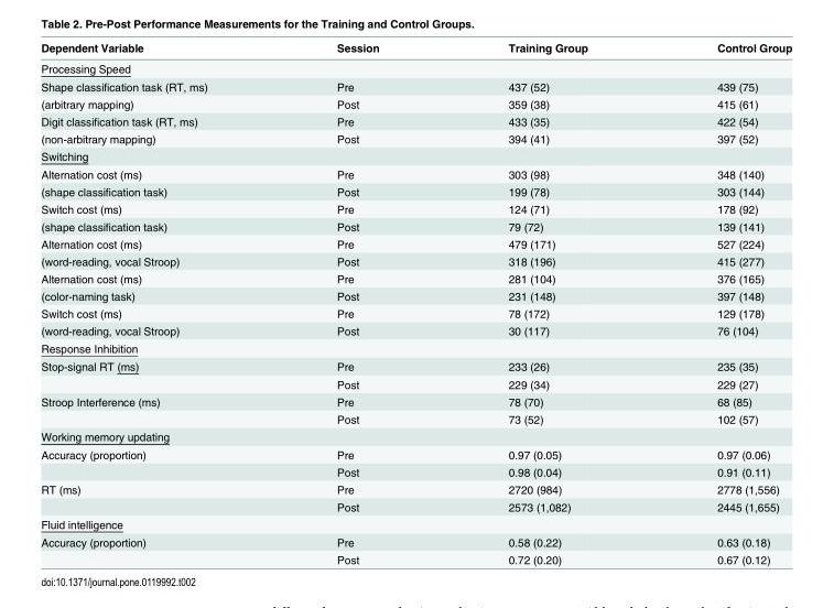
<table><thead><tr><td>Dependent Variable</td><td>Session</td><td>Training Group</td><td>Control Group</td></tr></thead><tbody><tr><td colspan="4">Processing Speed</td></tr><tr><td>Shape classification task (RT, ms)</td><td>Pre</td><td>437 (52)</td><td>439 (75)</td></tr><tr><td>(arbitrary mapping)</td><td>Post</td><td>359 (38)</td><td>415 (61)</td></tr><tr><td>Digit classification task (RT, ms)</td><td>Pre</td><td>433 (35)</td><td>422 (54)</td></tr><tr><td>(non-arbitrary mapping)</td><td>Post</td><td>394 (41)</td><td>397 (52)</td></tr><tr><td colspan="4">Switching</td></tr><tr><td>Alternation cost (ms)</td><td>Pre</td><td>303 (98)</td><td>348 (140)</td></tr><tr><td>(shape classification task)</td><td>Post</td><td>199 (78)</td><td>303 (144)</td></tr><tr><td>Switch cost (ms)</td><td>Pre</td><td>124 (71)</td><td>178 (92)</td></tr><tr><td>(shape classification task)</td><td>Post</td><td>79 (72)</td><td>139 (141)</td></tr><tr><td>Alternation cost (ms)</td><td>Pre</td><td>479 (171)</td><td>527 (224)</td></tr><tr><td>(word-reading, vocal Stroop)</td><td>Post</td><td>318 (196)</td><td>415 (277)</td></tr><tr><td>Alternation cost (ms)</td><td>Pre</td><td>281 (104)</td><td>376 (165)</td></tr><tr><td>(color-naming task)</td><td>Post</td><td>231 (148)</td><td>397 (148)</td></tr><tr><td>Switch cost (ms)</td><td>Pre</td><td>78 (172)</td><td>129 (178)</td></tr><tr><td>(word-reading, vocal Stroop)</td><td>Post</td><td>30 (117)</td><td>76 (104)</td></tr><tr><td colspan="4">Response Inhibition</td></tr><tr><td rowspan="2">Stop-signal RT (ms)</td><td>Pre</td><td>233 (26)</td><td>235 (35)</td></tr><tr><td>Post</td><td>229 (34)</td><td>229 (27)</td></tr><tr><td rowspan="2">Stroop Interference (ms)</td><td>Pre</td><td>78 (70)</td><td>68 (85)</td></tr><tr><td>Post</td><td>73 (52)</td><td>102 (57)</td></tr><tr><td colspan="4">Working memory updating</td></tr><tr><td rowspan="2">Accuracy (proportion)</td><td>Pre</td><td>0.97 (0.05)</td><td>0.97 (0.06)</td></tr><tr><td>Post</td><td>0.98 (0.04)</td><td>0.91 (0.11)</td></tr><tr><td rowspan="2">RT (ms)</td><td>Pre</td><td>2720 (984)</td><td>2778 (1,556)</td></tr><tr><td>Post</td><td>2573 (1,082)</td><td>2445 (1,655)</td></tr><tr><td colspan="4">Fluid intelligence</td></tr><tr><td rowspan="2">Accuracy (proportion)</td><td>Pre</td><td>0.58 (0.22)</td><td>0.63 (0.18)</td></tr><tr><td>Post</td><td>0.72 (0.20)</td><td>0.67 (0.12)</td></tr></tbody></table>